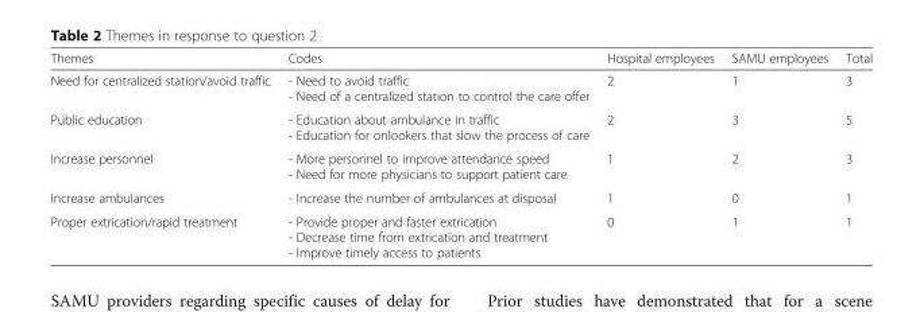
<table><thead><tr><td>Themes</td><td>Codes</td><td>Hospital employees</td><td>SAMU employees</td><td>Total</td></tr></thead><tbody><tr><td>Need for centralized station/avoid traffic</td><td>- Need to avoid traffic - Need of a centralized station to control the care offer</td><td>2</td><td>1</td><td>3</td></tr><tr><td>Public education</td><td>- Education about ambulance in traffic - Education for onlookers that slow the process of care</td><td>2</td><td>3</td><td>5</td></tr><tr><td>Increase personnel</td><td>- More personnel to improve attendance speed - Need for more physicians to support patient care</td><td>1</td><td>2</td><td>3</td></tr><tr><td>Increase ambulances</td><td>- Increase the number of ambulances at disposal</td><td>1</td><td>0</td><td>1</td></tr><tr><td>Proper extrication/rapid treatment</td><td>- Provide proper and faster extrication - Decrease time from extrication and treatment - Improve timely access to patients</td><td>0</td><td>1</td><td>1</td></tr></tbody></table>